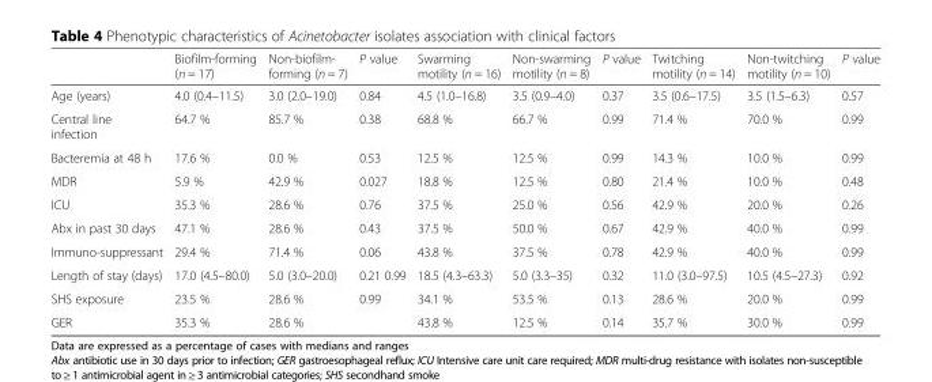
<table><thead><tr><td></td><td>Biofilm-forming (n = 17)</td><td>Non-biofilm- forming (n = 7)</td><td>P value</td><td>Swarming motility (n = 16)</td><td>Non-swarming motility (n = 8)</td><td>P value</td><td>Twitching motility (n = 14)</td><td>Non-twitching motility (n = 10)</td><td>P value</td></tr></thead><tbody><tr><td>Age (years)</td><td>4.0 (0.4–11.5)</td><td>3.0 (2.0–19.0)</td><td>0.84</td><td>4.5 (1.0–16.8)</td><td>3.5 (0.9–4.0)</td><td>0.37</td><td>3.5 (0.6–17.5)</td><td>3.5 (1.5–6.3)</td><td>0.57</td></tr><tr><td>Central line infection</td><td>64.7 %</td><td>85.7 %</td><td>0.38</td><td>68.8 %</td><td>66.7 %</td><td>0.99</td><td>71.4 %</td><td>70.0 %</td><td>0.99</td></tr><tr><td>Bacteremia at 48 h</td><td>17.6 %</td><td>0.0 %</td><td>0.53</td><td>12.5 %</td><td>12.5 %</td><td>0.99</td><td>14.3 %</td><td>10.0 %</td><td>0.99</td></tr><tr><td>MDR</td><td>5.9 %</td><td>42.9 %</td><td>0.027</td><td>18.8 %</td><td>12.5 %</td><td>0.80</td><td>21.4 %</td><td>10.0 %</td><td>0.48</td></tr><tr><td>ICU</td><td>35.3 %</td><td>28.6 %</td><td>0.76</td><td>37.5 %</td><td>25.0 %</td><td>0.56</td><td>42.9 %</td><td>20.0 %</td><td>0.26</td></tr><tr><td>Abx in past 30 days</td><td>47.1 %</td><td>28.6 %</td><td>0.43</td><td>37.5 %</td><td>50.0 %</td><td>0.67</td><td>42.9 %</td><td>40.0 %</td><td>0.99</td></tr><tr><td>Immuno-suppressant</td><td>29.4 %</td><td>71.4 %</td><td>0.06</td><td>43.8 %</td><td>37.5 %</td><td>0.78</td><td>42.9 %</td><td>40.0 %</td><td>0.99</td></tr><tr><td>Length of stay (days)</td><td>17.0 (4.5–80.0)</td><td>5.0 (3.0–20.0)</td><td>0.21 0.99</td><td>18.5 (4.3–63.3)</td><td>5.0 (3.3–35)</td><td>0.32</td><td>11.0 (3.0–97.5)</td><td>10.5 (4.5–27.3)</td><td>0.92</td></tr><tr><td>SHS exposure</td><td>23.5 %</td><td>28.6 %</td><td>0.99</td><td>34.1 %</td><td>53.5 %</td><td>0.13</td><td>28.6 %</td><td>20.0 %</td><td>0.99</td></tr><tr><td>GER</td><td>35.3 %</td><td>28.6 %</td><td></td><td>43.8 %</td><td>12.5 %</td><td>0.14</td><td>35.7 %</td><td>30.0 %</td><td>0.99</td></tr></tbody></table>